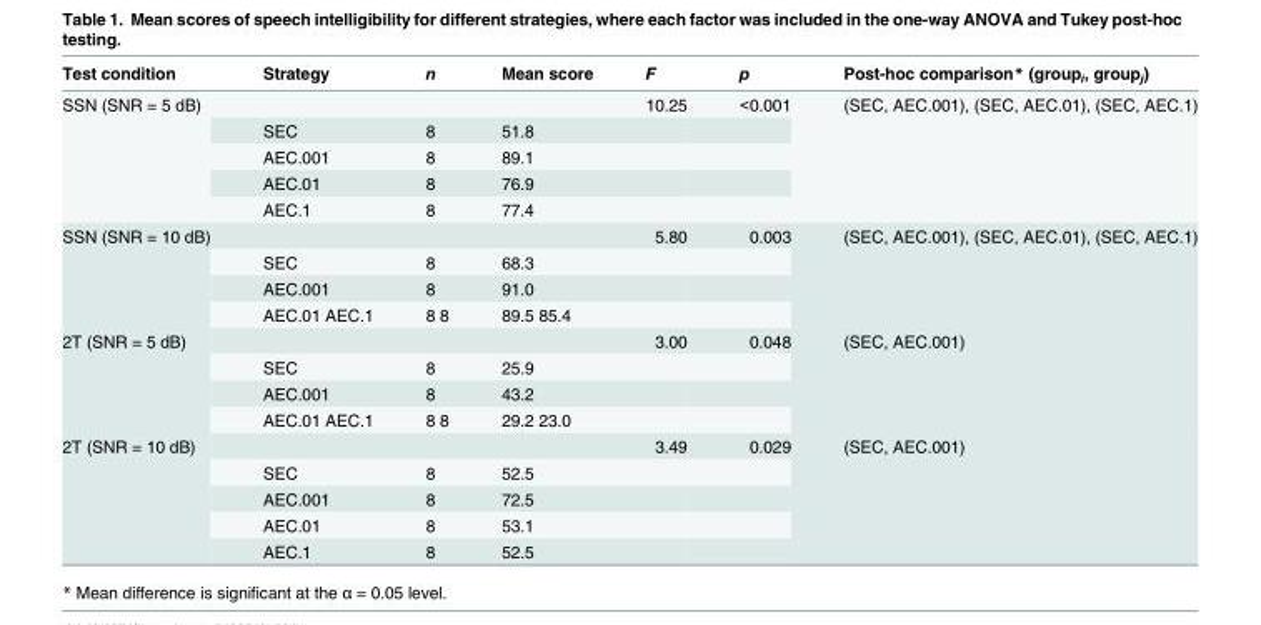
<table><thead><tr><td>Test condition</td><td>Strategy</td><td>n</td><td>Mean score</td><td>F</td><td>p</td><td>Post-hoc comparison* (group<sub>i</sub>, group<sub>j</sub>)</td></tr></thead><tbody><tr><td rowspan="5">SSN (SNR = 5 dB)</td><td></td><td></td><td></td><td>10.25</td><td>&lt;0.001</td><td rowspan="5">(SEC, AEC.001), (SEC, AEC.01), (SEC, AEC.1)</td></tr><tr><td>SEC</td><td>8</td><td>51.8</td><td></td><td></td></tr><tr><td>AEC.001</td><td>8</td><td>89.1</td><td></td><td></td></tr><tr><td>AEC.01</td><td>8</td><td>76.9</td><td></td><td></td></tr><tr><td>AEC.1</td><td>8</td><td>77.4</td><td></td><td></td></tr><tr><td rowspan="4">SSN (SNR = 10 dB)</td><td></td><td></td><td></td><td>5.80</td><td>0.003</td><td rowspan="4">(SEC, AEC.001), (SEC, AEC.01), (SEC, AEC.1)</td></tr><tr><td>SEC</td><td>8</td><td>68.3</td><td></td><td></td></tr><tr><td>AEC.001</td><td>8</td><td>91.0</td><td></td><td></td></tr><tr><td>AEC.01 AEC.1</td><td>8 8</td><td>89.5 85.4</td><td></td><td></td></tr><tr><td rowspan="4">2T (SNR = 5 dB)</td><td></td><td></td><td></td><td>3.00</td><td>0.048</td><td rowspan="4">(SEC, AEC.001)</td></tr><tr><td>SEC</td><td>8</td><td>25.9</td><td></td><td></td></tr><tr><td>AEC.001</td><td>8</td><td>43.2</td><td></td><td></td></tr><tr><td>AEC.01 AEC.1</td><td>8 8</td><td>29.2 23.0</td><td></td><td></td></tr><tr><td rowspan="5">2T (SNR = 10 dB)</td><td></td><td></td><td></td><td>3.49</td><td>0.029</td><td rowspan="5">(SEC, AEC.001)</td></tr><tr><td>SEC</td><td>8</td><td>52.5</td><td></td><td></td></tr><tr><td>AEC.001</td><td>8</td><td>72.5</td><td></td><td></td></tr><tr><td>AEC.01</td><td>8</td><td>53.1</td><td></td><td></td></tr><tr><td>AEC.1</td><td>8</td><td>52.5</td><td></td><td></td></tr></tbody></table>